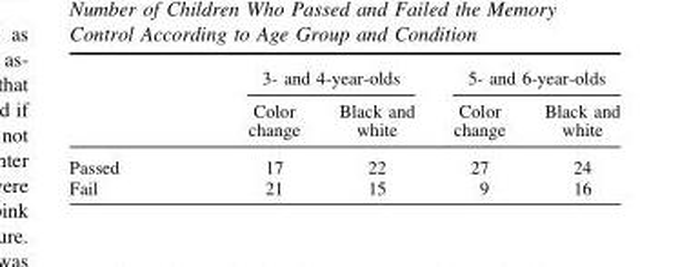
<table><thead><tr><td rowspan="2"></td><td colspan="2">3- and 4-year-olds</td><td colspan="2">5- and 6-year-olds</td></tr><tr><td>Color change</td><td>Black and white</td><td>Color change</td><td>Black and white</td></tr></thead><tbody><tr><td>Passed</td><td>17</td><td>22</td><td>27</td><td>24</td></tr><tr><td>Fail</td><td>21</td><td>15</td><td>9</td><td>16</td></tr></tbody></table>